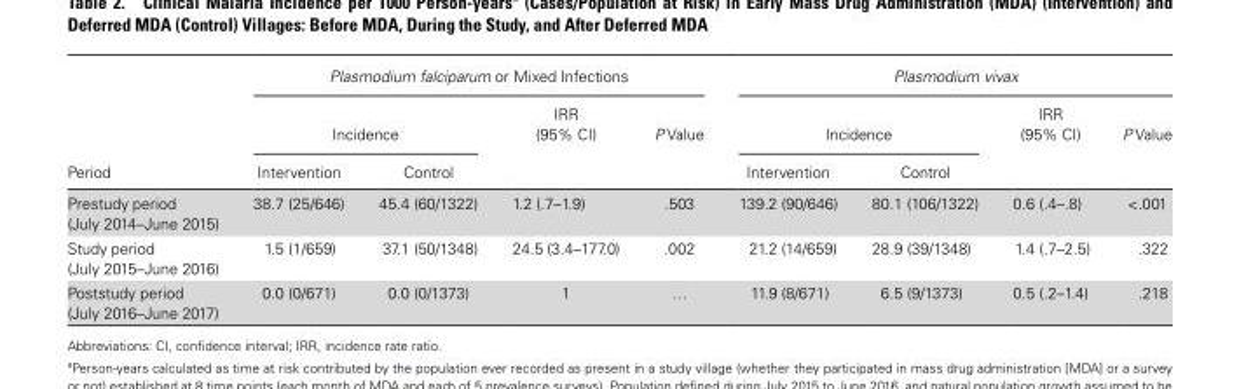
<table><thead><tr><td rowspan="3">Period</td><td colspan="4">Plasmodium falciparum or Mixed Infections</td><td colspan="4">Plasmodium vivax</td></tr><tr><td colspan="2">Incidence</td><td rowspan="2">IRR (95% CI)</td><td rowspan="2">P Value</td><td colspan="2">Incidence</td><td rowspan="2">IRR (95% CI)</td><td rowspan="2">P Value</td></tr><tr><td>Intervention</td><td>Control</td><td>Intervention</td><td>Control</td></tr></thead><tbody><tr><td>Prestudy period (July 2014–June 2015)</td><td>38.7 (25/646)</td><td>45.4 (60/1322)</td><td>1.2 (.7–1.9)</td><td>.503</td><td>139.2 (90/646)</td><td>80.1 (106/1322)</td><td>0.6 (.4–.8)</td><td>&lt;.001</td></tr><tr><td>Study period (July 2015–June 2016)</td><td>1.5 (1/659)</td><td>37.1 (50/1348)</td><td>24.5 (3.4–177.0)</td><td>.002</td><td>21.2 (14/659)</td><td>28.9 (39/1348)</td><td>1.4 (.7–2.5)</td><td>.322</td></tr><tr><td>Poststudy period (July 2016–June 2017)</td><td>0.0 (0/671)</td><td>0.0 (0/1373)</td><td>1</td><td>…</td><td>11.9 (8/671)</td><td>6.5 (9/1373)</td><td>0.5 (.2–1.4)</td><td>.218</td></tr></tbody></table>